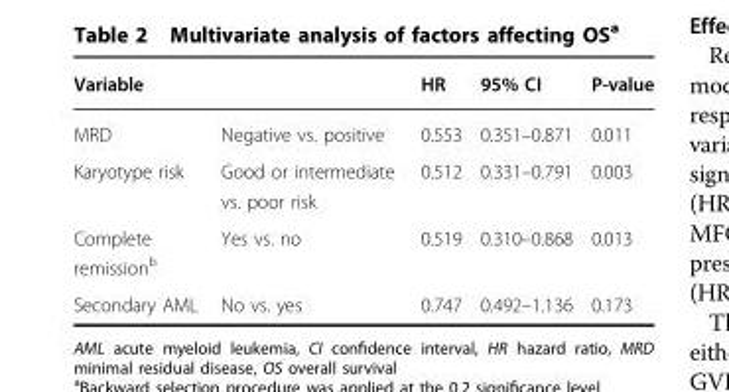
<table><thead><tr><td>Variable</td><td></td><td>HR</td><td>95% CI</td><td>P-value</td></tr></thead><tbody><tr><td>MRD</td><td>Negative vs. positive</td><td>0.553</td><td>0.351–0.871</td><td>0.011</td></tr><tr><td>Karyotype risk</td><td>Good or intermediate vs. poor risk</td><td>0.512</td><td>0.331–0.791</td><td>0.003</td></tr><tr><td>Complete remission<sup>b</sup></td><td>Yes vs. no</td><td>0.519</td><td>0.310–0.868</td><td>0.013</td></tr><tr><td>Secondary AML</td><td>No vs. yes</td><td>0.747</td><td>0.492–1.136</td><td>0.173</td></tr></tbody></table>